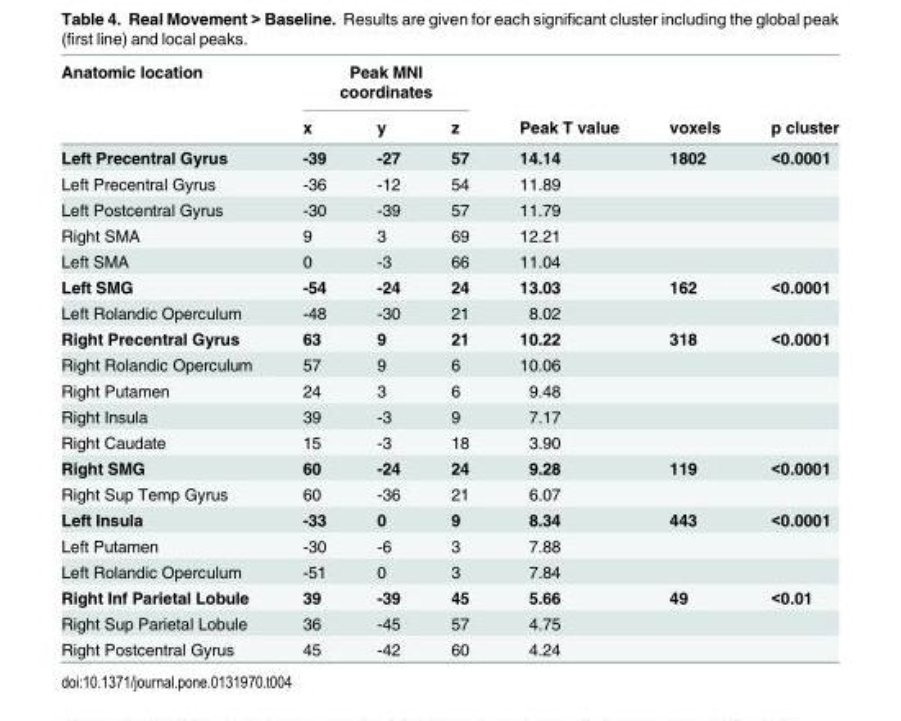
<table><thead><tr><td rowspan="2">Anatomic location</td><td colspan="3">Peak MNI coordinates</td><td rowspan="2">Peak T value</td><td rowspan="2">voxels</td><td rowspan="2">p cluster</td></tr><tr><td>x</td><td>y</td><td>z</td></tr></thead><tbody><tr><td>Left Precentral Gyrus</td><td>-39</td><td>-27</td><td>57</td><td>14.14</td><td>1802</td><td>&lt;0.0001</td></tr><tr><td>Left Precentral Gyrus</td><td>-36</td><td>-12</td><td>54</td><td>11.89</td><td></td><td></td></tr><tr><td>Left Postcentral Gyrus</td><td>-30</td><td>-39</td><td>57</td><td>11.79</td><td></td><td></td></tr><tr><td>Right SMA</td><td>9</td><td>3</td><td>69</td><td>12.21</td><td></td><td></td></tr><tr><td>Left SMA</td><td>0</td><td>-3</td><td>66</td><td>11.04</td><td></td><td></td></tr><tr><td>Left SMG</td><td>-54</td><td>-24</td><td>24</td><td>13.03</td><td>162</td><td>&lt;0.0001</td></tr><tr><td>Left Rolandic Operculum</td><td>-48</td><td>-30</td><td>21</td><td>8.02</td><td></td><td></td></tr><tr><td>Right Precentral Gyrus</td><td>63</td><td>9</td><td>21</td><td>10.22</td><td>318</td><td>&lt;0.0001</td></tr><tr><td>Right Rolandic Operculum</td><td>57</td><td>9</td><td>6</td><td>10.06</td><td></td><td></td></tr><tr><td>Right Putamen</td><td>24</td><td>3</td><td>6</td><td>9.48</td><td></td><td></td></tr><tr><td>Right Insula</td><td>39</td><td>-3</td><td>9</td><td>7.17</td><td></td><td></td></tr><tr><td>Right Caudate</td><td>15</td><td>-3</td><td>18</td><td>3.90</td><td></td><td></td></tr><tr><td>Right SMG</td><td>60</td><td>-24</td><td>24</td><td>9.28</td><td>119</td><td>&lt;0.0001</td></tr><tr><td>Right Sup Temp Gyrus</td><td>60</td><td>-36</td><td>21</td><td>6.07</td><td></td><td></td></tr><tr><td>Left Insula</td><td>-33</td><td>0</td><td>9</td><td>8.34</td><td>443</td><td>&lt;0.0001</td></tr><tr><td>Left Putamen</td><td>-30</td><td>-6</td><td>3</td><td>7.88</td><td></td><td></td></tr><tr><td>Left Rolandic Operculum</td><td>-51</td><td>0</td><td>3</td><td>7.84</td><td></td><td></td></tr><tr><td>Right Inf Parietal Lobule</td><td>39</td><td>-39</td><td>45</td><td>5.66</td><td>49</td><td>&lt;0.01</td></tr><tr><td>Right Sup Parietal Lobule</td><td>36</td><td>-45</td><td>57</td><td>4.75</td><td></td><td></td></tr><tr><td>Right Postcentral Gyrus</td><td>45</td><td>-42</td><td>60</td><td>4.24</td><td></td><td></td></tr></tbody></table>